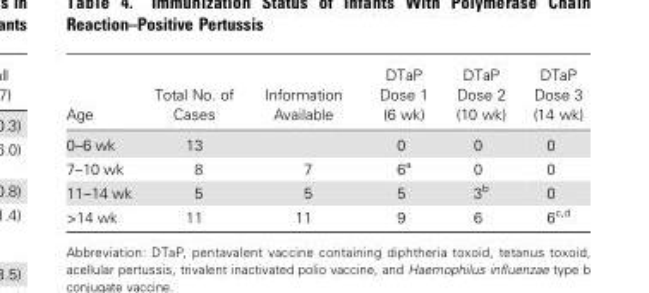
<table><thead><tr><td>Age</td><td>Total No. of Cases</td><td>Information Available</td><td>DTaP Dose 1 (6 wk)</td><td>DTaP Dose 2 (10 wk)</td><td>DTaP Dose 3 (14 wk)</td></tr></thead><tbody><tr><td>0–6 wk</td><td>13</td><td></td><td>0</td><td>0</td><td>0</td></tr><tr><td>7–10 wk</td><td>8</td><td>7</td><td>6<sup>a</sup></td><td>0</td><td>0</td></tr><tr><td>11–14 wk</td><td>5</td><td>5</td><td>5</td><td>3<sup>b</sup></td><td>0</td></tr><tr><td>&gt;14 wk</td><td>11</td><td>11</td><td>9</td><td>6</td><td>6<sup>c,d</sup></td></tr></tbody></table>